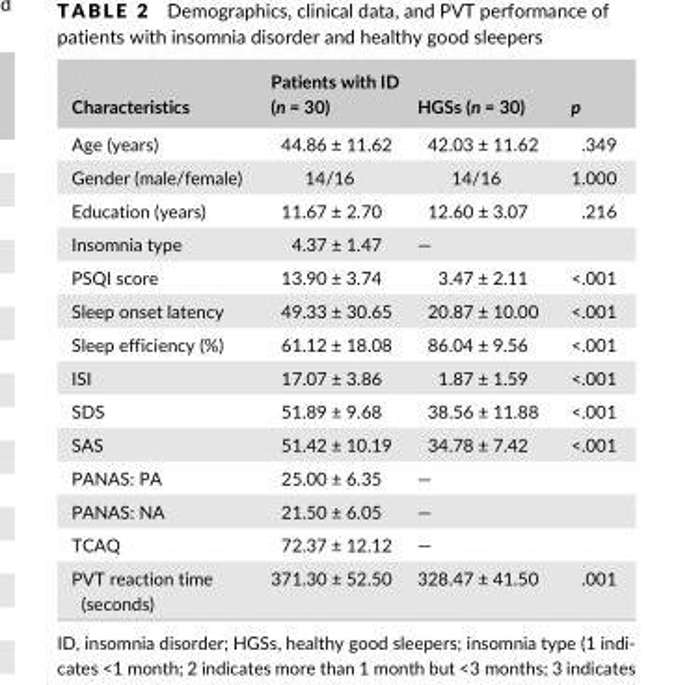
<table><thead><tr><td>Characteristics</td><td>Patients with ID (n = 30)</td><td>HGSs (n = 30)</td><td>p</td></tr></thead><tbody><tr><td>Age (years)</td><td>44.86 ± 11.62</td><td>42.03 ± 11.62</td><td>.349</td></tr><tr><td>Gender (male/female)</td><td>14/16</td><td>14/16</td><td>1.000</td></tr><tr><td>Education (years)</td><td>11.67 ± 2.70</td><td>12.60 ± 3.07</td><td>.216</td></tr><tr><td>Insomnia type</td><td>4.37 ± 1.47</td><td>—</td><td></td></tr><tr><td>PSQI score</td><td>13.90 ± 3.74</td><td>3.47 ± 2.11</td><td>&lt;.001</td></tr><tr><td>Sleep onset latency</td><td>49.33 ± 30.65</td><td>20.87 ± 10.00</td><td>&lt;.001</td></tr><tr><td>Sleep efficiency (%)</td><td>61.12 ± 18.08</td><td>86.04 ± 9.56</td><td>&lt;.001</td></tr><tr><td>ISI</td><td>17.07 ± 3.86</td><td>1.87 ± 1.59</td><td>&lt;.001</td></tr><tr><td>SDS</td><td>51.89 ± 9.68</td><td>38.56 ± 11.88</td><td>&lt;.001</td></tr><tr><td>SAS</td><td>51.42 ± 10.19</td><td>34.78 ± 7.42</td><td>&lt;.001</td></tr><tr><td>PANAS: PA</td><td>25.00 ± 6.35</td><td>—</td><td></td></tr><tr><td>PANAS: NA</td><td>21.50 ± 6.05</td><td>—</td><td></td></tr><tr><td>TCAQ</td><td>72.37 ± 12.12</td><td>—</td><td></td></tr><tr><td>PVT reaction time (seconds)</td><td>371.30 ± 52.50</td><td>328.47 ± 41.50</td><td>.001</td></tr></tbody></table>